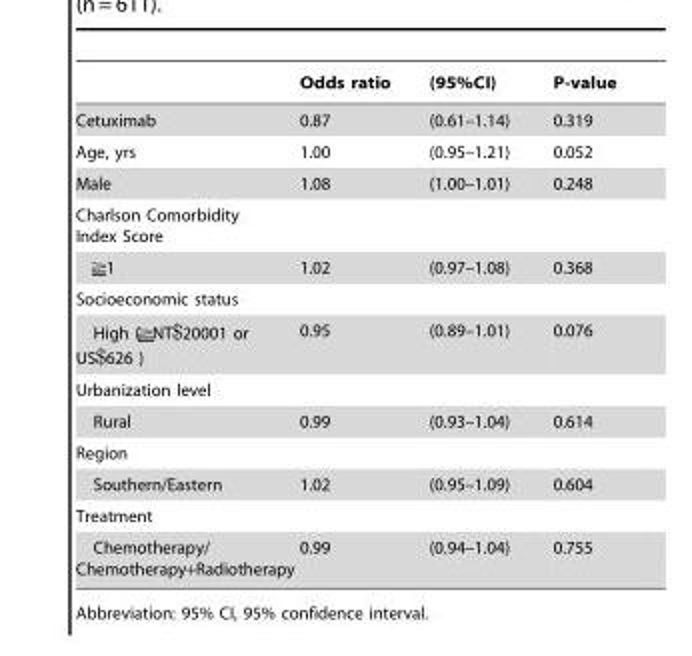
<table><thead><tr><td></td><td>Odds ratio</td><td>(95%CI)</td><td>P-value</td></tr></thead><tbody><tr><td>Cetuximab</td><td>0.87</td><td>(0.61–1.14)</td><td>0.319</td></tr><tr><td>Age, yrs</td><td>1.00</td><td>(0.95–1.21)</td><td>0.052</td></tr><tr><td>Male</td><td>1.08</td><td>(1.00–1.01)</td><td>0.248</td></tr><tr><td colspan="4">Charlson Comorbidity Index Score</td></tr><tr><td>1</td><td>1.02</td><td>(0.97–1.08)</td><td>0.368</td></tr><tr><td colspan="4">Socioeconomic status</td></tr><tr><td>High ( NT$20001 or US$626 )</td><td>0.95</td><td>(0.89–1.01)</td><td>0.076</td></tr><tr><td colspan="4">Urbanization level</td></tr><tr><td>Rural</td><td>0.99</td><td>(0.93–1.04)</td><td>0.614</td></tr><tr><td colspan="4">Region</td></tr><tr><td>Southern/Eastern</td><td>1.02</td><td>(0.95–1.09)</td><td>0.604</td></tr><tr><td colspan="4">Treatment</td></tr><tr><td>Chemotherapy/ Chemotherapy+Radiotherapy</td><td>0.99</td><td>(0.94–1.04)</td><td>0.755</td></tr></tbody></table>